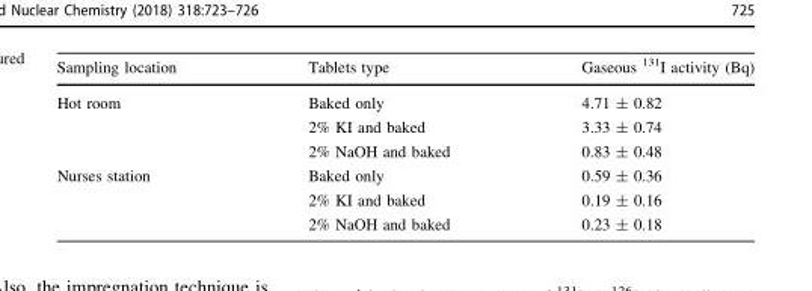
<table><thead><tr><td>Sampling location</td><td>Tablets type</td><td>Gaseous <sup>131</sup>I activity (Bq)</td></tr></thead><tbody><tr><td rowspan="3">Hot room</td><td>Baked only</td><td>4.71 ± 0.82</td></tr><tr><td>2% KI and baked</td><td>3.33 ± 0.74</td></tr><tr><td>2% NaOH and baked</td><td>0.83 ± 0.48</td></tr><tr><td rowspan="3">Nurses station</td><td>Baked only</td><td>0.59 ± 0.36</td></tr><tr><td>2% KI and baked</td><td>0.19 ± 0.16</td></tr><tr><td>2% NaOH and baked</td><td>0.23 ± 0.18</td></tr></tbody></table>